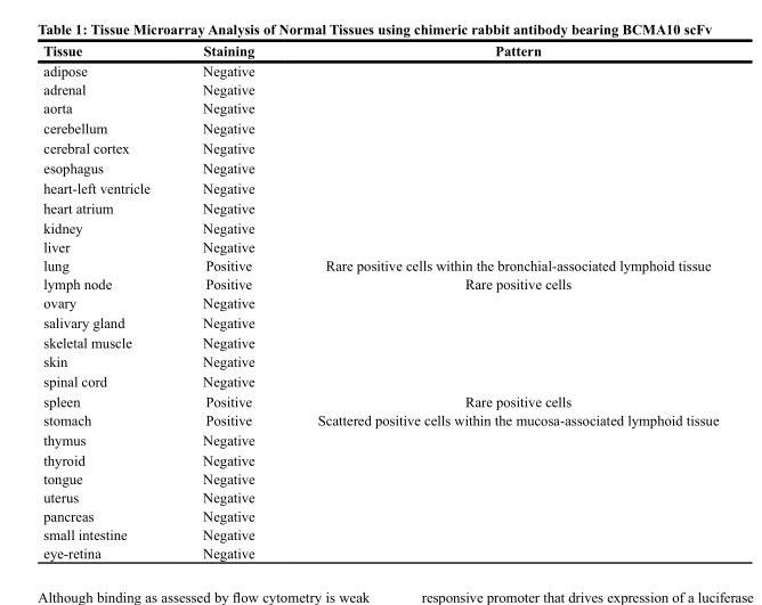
<table><thead><tr><td>Tissue</td><td>Staining</td><td>Pattern</td></tr></thead><tbody><tr><td>adipose</td><td>Negative</td><td></td></tr><tr><td>adrenal</td><td>Negative</td><td></td></tr><tr><td>aorta</td><td>Negative</td><td></td></tr><tr><td>cerebellum</td><td>Negative</td><td></td></tr><tr><td>cerebral cortex</td><td>Negative</td><td></td></tr><tr><td>esophagus</td><td>Negative</td><td></td></tr><tr><td>heart-left ventricle</td><td>Negative</td><td></td></tr><tr><td>heart atrium</td><td>Negative</td><td></td></tr><tr><td>kidney</td><td>Negative</td><td></td></tr><tr><td>liver</td><td>Negative</td><td></td></tr><tr><td>lung</td><td>Positive</td><td>Rare positive cells within the bronchial-associated lymphoid tissue</td></tr><tr><td>lymph node</td><td>Positive</td><td>Rare positive cells</td></tr><tr><td>ovary</td><td>Negative</td><td></td></tr><tr><td>salivary gland</td><td>Negative</td><td></td></tr><tr><td>skeletal muscle</td><td>Negative</td><td></td></tr><tr><td>skin</td><td>Negative</td><td></td></tr><tr><td>spinal cord</td><td>Negative</td><td></td></tr><tr><td>spleen</td><td>Positive</td><td>Rare positive cells</td></tr><tr><td>stomach</td><td>Positive</td><td>Scattered positive cells within the mucosa-associated lymphoid tissue</td></tr><tr><td>thymus</td><td>Negative</td><td></td></tr><tr><td>thyroid</td><td>Negative</td><td></td></tr><tr><td>tongue</td><td>Negative</td><td></td></tr><tr><td>uterus</td><td>Negative</td><td></td></tr><tr><td>pancreas</td><td>Negative</td><td></td></tr><tr><td>small intestine</td><td>Negative</td><td></td></tr><tr><td>eye-retina</td><td>Negative</td><td></td></tr></tbody></table>